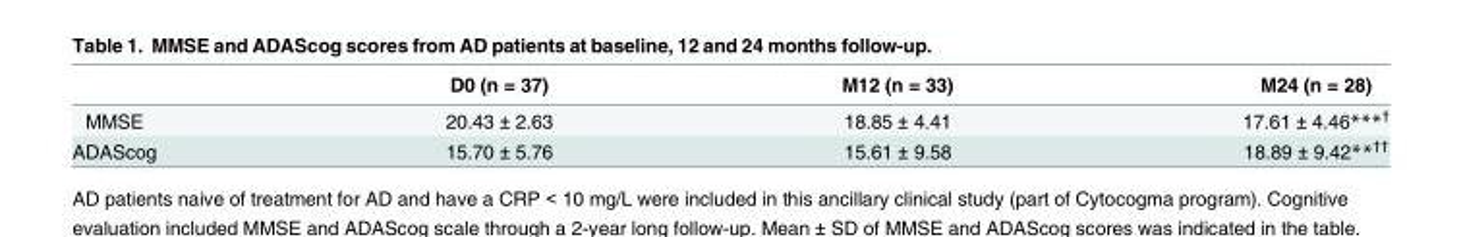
<table><thead><tr><td></td><td>D0 (n = 37)</td><td>M12 (n = 33)</td><td>M24 (n = 28)</td></tr></thead><tbody><tr><td>MMSE</td><td>20.43 ± 2.63</td><td>18.85 ± 4.41</td><td>17.61 ± 4.46***<sup>†</sup></td></tr><tr><td>ADAScog</td><td>15.70 ± 5.76</td><td>15.61 ± 9.58</td><td>18.89 ± 9.42**<sup>††</sup></td></tr></tbody></table>